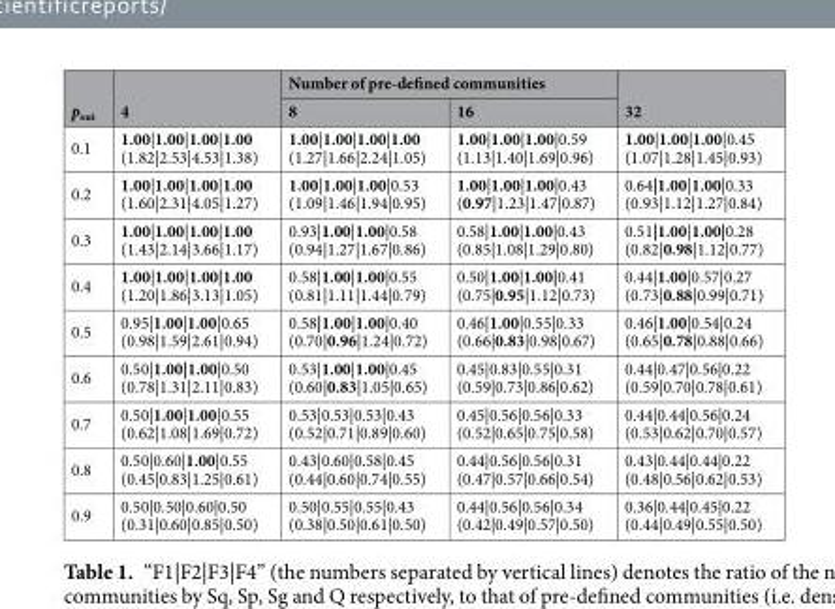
<table><thead><tr><td rowspan="2">p<sub>out</sub></td><td rowspan="2">4</td><td colspan="2">Number of pre-defined communities</td><td rowspan="2">32</td></tr><tr><td>8</td><td>16</td></tr></thead><tbody><tr><td>0.1</td><td>1.00|1.00|1.00|1.00 (1.82|2.53|4.53|1.38)</td><td>1.00|1.00|1.00|1.00 (1.27|1.66|2.24|1.05)</td><td>1.00|1.00|1.00|0.59 (1.13|1.40|1.69|0.96)</td><td>1.00|1.00|1.00|0.45 (1.07|1.28|1.45|0.93)</td></tr><tr><td>0.2</td><td>1.00|1.00|1.00|1.00 (1.60|2.31|4.05|1.27)</td><td>1.00|1.00|1.00|0.53 (1.09|1.46|1.94|0.95)</td><td>1.00|1.00|1.00|0.43 (0.97|1.23|1.47|0.87)</td><td>0.64|1.00|1.00|0.33 (0.93|1.12|1.27|0.84)</td></tr><tr><td>0.3</td><td>1.00|1.00|1.00|1.00 (1.43|2.14|3.66|1.17)</td><td>0.93|1.00|1.00|0.58 (0.94|1.27|1.67|0.86)</td><td>0.58|1.00|1.00|0.43 (0.85|1.08|1.29|0.80)</td><td>0.51|1.00|1.00|0.28 (0.82|0.98|1.12|0.77)</td></tr><tr><td>0.4</td><td>1.00|1.00|1.00|1.00 (1.20|1.86|3.13|1.05)</td><td>0.58|1.00|1.00|0.55 (0.81|1.11|1.44|0.79)</td><td>0.50|1.00|1.00|0.41 (0.75|0.95|1.12|0.73)</td><td>0.44|1.00|0.57|0.27 (0.73|0.88|0.99|0.71)</td></tr><tr><td>0.5</td><td>0.95|1.00|1.00|0.65 (0.98|1.59|2.61|0.94)</td><td>0.58|1.00|1.00|0.40 (0.70|0.96|1.24|0.72)</td><td>0.46|1.00|0.55|0.33 (0.66|0.83|0.98|0.67)</td><td>0.46|1.00|0.54|0.24 (0.65|0.78|0.88|0.66)</td></tr><tr><td>0.6</td><td>0.50|1.00|1.00|0.50 (0.78|1.31|2.11|0.83)</td><td>0.53|1.00|1.00|0.45 (0.60|0.83|1.05|0.65)</td><td>0.45|0.83|0.55|0.31 (0.59|0.73|0.86|0.62)</td><td>0.44|0.47|0.56|0.22 (0.59|0.70|0.78|0.61)</td></tr><tr><td>0.7</td><td>0.50|1.00|1.00|0.55 (0.62|1.08|1.69|0.72)</td><td>0.53|0.53|0.53|0.43 (0.52|0.71|0.89|0.60)</td><td>0.45|0.56|0.56|0.33 (0.52|0.65|0.75|0.58)</td><td>0.44|0.44|0.56|0.24 (0.53|0.62|0.70|0.57)</td></tr><tr><td>0.8</td><td>0.50|0.60|1.00|0.55 (0.45|0.83|1.25|0.61)</td><td>0.43|0.60|0.58|0.45 (0.44|0.60|0.74|0.55)</td><td>0.44|0.56|0.56|0.31 (0.47|0.57|0.66|0.54)</td><td>0.43|0.44|0.44|0.22 (0.48|0.56|0.62|0.53)</td></tr><tr><td>0.9</td><td>0.50|0.50|0.60|0.50 (0.31|0.60|0.85|0.50)</td><td>0.50|0.55|0.55|0.43 (0.38|0.50|0.61|0.50)</td><td>0.44|0.56|0.56|0.34 (0.42|0.49|0.57|0.50)</td><td>0.36|0.44|0.45|0.22 (0.44|0.49|0.55|0.50)</td></tr></tbody></table>